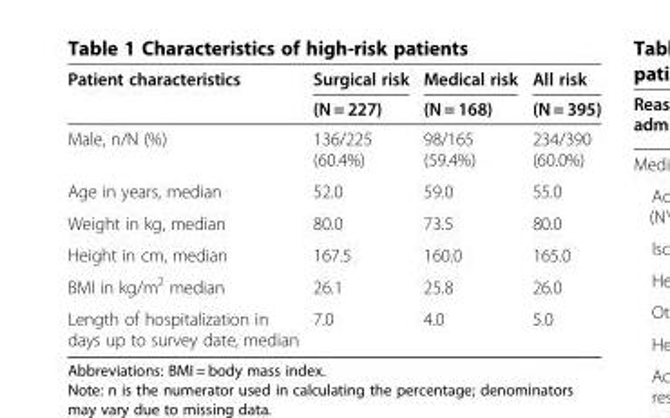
<table><thead><tr><td rowspan="2">Patient characteristics</td><td rowspan="2">Surgical risk (N = 227)</td><td rowspan="2">Medical risk (N = 168)</td><td rowspan="2">All risk (N = 395)</td></tr><tr></tr></thead><tbody><tr><td>Male, n/N (%)</td><td>136/225 (60.4%)</td><td>98/165 (59.4%)</td><td>234/390 (60.0%)</td></tr><tr><td>Age in years, median</td><td>52.0</td><td>59.0</td><td>55.0</td></tr><tr><td>Weight in kg, median</td><td>80.0</td><td>73.5</td><td>80.0</td></tr><tr><td>Height in cm, median</td><td>167.5</td><td>160.0</td><td>165.0</td></tr><tr><td>BMI in kg/m<sup>2</sup> median</td><td>26.1</td><td>25.8</td><td>26.0</td></tr><tr><td>Length of hospitalization in days up to survey date, median</td><td>7.0</td><td>4.0</td><td>5.0</td></tr></tbody></table>